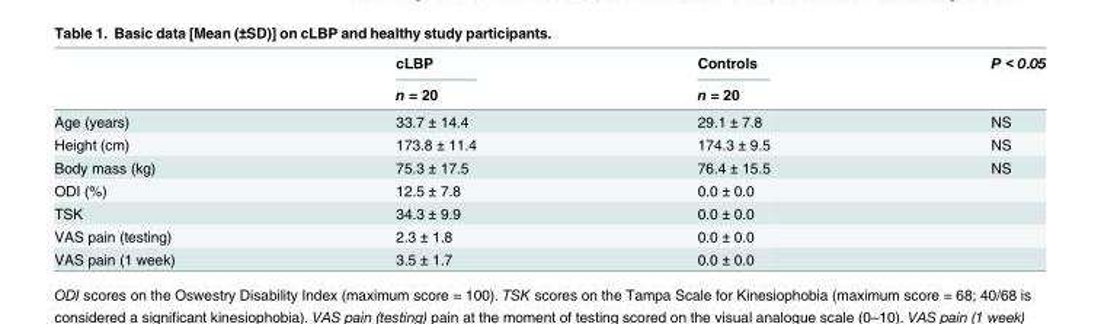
<table><thead><tr><td rowspan="2"></td><td rowspan="2">cLBP n = 20</td><td rowspan="2">Controls n = 20</td><td rowspan="2">P &lt; 0.05</td></tr><tr></tr></thead><tbody><tr><td>Age (years)</td><td>33.7 ± 14.4</td><td>29.1 ± 7.8</td><td>NS</td></tr><tr><td>Height (cm)</td><td>173.8 ± 11.4</td><td>174.3 ± 9.5</td><td>NS</td></tr><tr><td>Body mass (kg)</td><td>75.3 ± 17.5</td><td>76.4 ± 15.5</td><td>NS</td></tr><tr><td>ODI (%)</td><td>12.5 ± 7.8</td><td>0.0 ± 0.0</td><td></td></tr><tr><td>TSK</td><td>34.3 ± 9.9</td><td>0.0 ± 0.0</td><td></td></tr><tr><td>VAS pain (testing)</td><td>2.3 ± 1.8</td><td>0.0 ± 0.0</td><td></td></tr><tr><td>VAS pain (1 week)</td><td>3.5 ± 1.7</td><td>0.0 ± 0.0</td><td></td></tr></tbody></table>